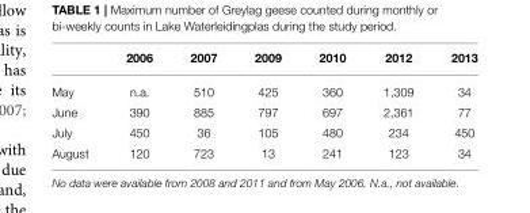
<table><thead><tr><td></td><td>2006</td><td>2007</td><td>2009</td><td>2010</td><td>2012</td><td>2013</td></tr></thead><tbody><tr><td>May</td><td>n.a.</td><td>510</td><td>425</td><td>360</td><td>1,309</td><td>34</td></tr><tr><td>June</td><td>390</td><td>885</td><td>797</td><td>697</td><td>2,361</td><td>77</td></tr><tr><td>July</td><td>450</td><td>36</td><td>105</td><td>480</td><td>234</td><td>450</td></tr><tr><td>August</td><td>120</td><td>723</td><td>13</td><td>241</td><td>123</td><td>34</td></tr></tbody></table>